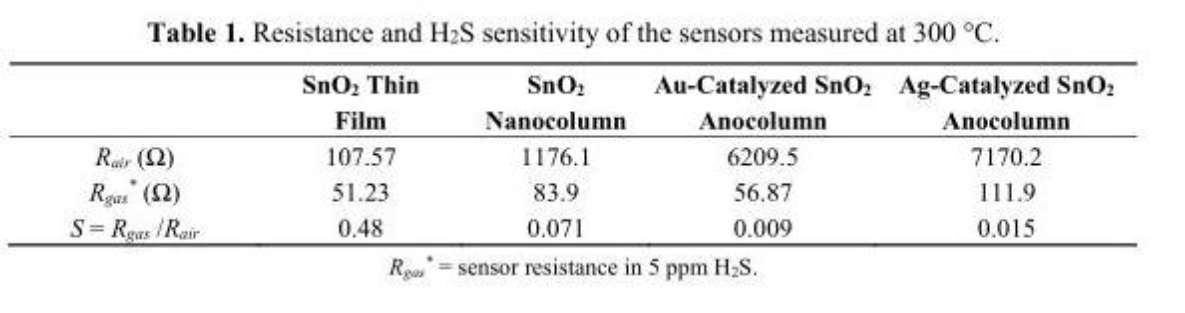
<table><thead><tr><td></td><td>SnO<sub>2</sub> Thin Film</td><td>SnO<sub>2</sub> Nanocolumn</td><td>Au-Catalyzed SnO<sub>2</sub> Anocolumn</td><td>Ag-Catalyzed SnO<sub>2</sub> Anocolumn</td></tr></thead><tbody><tr><td>R<sub>air</sub> (Ω)</td><td>107.57</td><td>1176.1</td><td>6209.5</td><td>7170.2</td></tr><tr><td>R<sub>gas</sub>* (Ω)</td><td>51.23</td><td>83.9</td><td>56.87</td><td>111.9</td></tr><tr><td>S = R<sub>gas</sub> /R<sub>air</sub></td><td>0.48</td><td>0.071</td><td>0.009</td><td>0.015</td></tr></tbody></table>